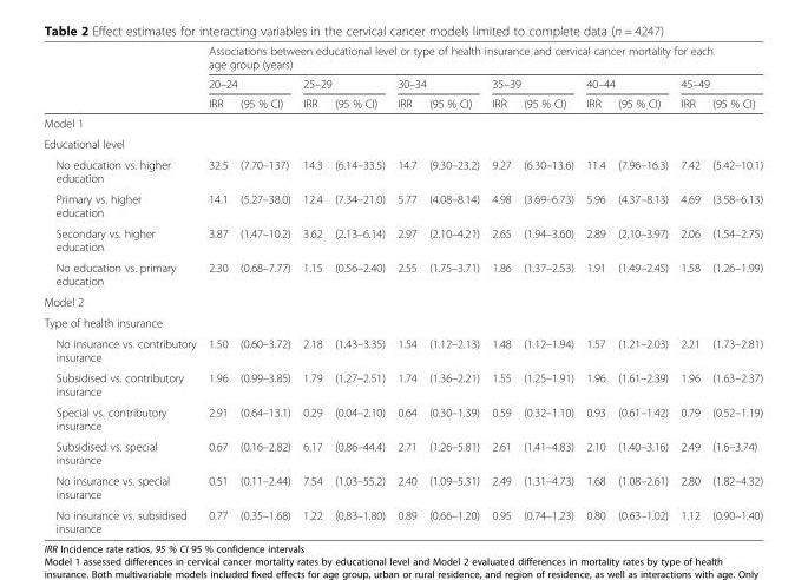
<table><thead><tr><td rowspan="3"></td><td colspan="12">Associations between educational level or type of health insurance and cervical cancer mortality for each age group (years)</td></tr><tr><td colspan="2">20–24</td><td colspan="2">25–29</td><td colspan="2">30–34</td><td colspan="2">35–39</td><td colspan="2">40–44</td><td colspan="2">45–49</td></tr><tr><td>IRR</td><td>(95 % CI)</td><td>IRR</td><td>(95 % CI)</td><td>IRR</td><td>(95 % CI)</td><td>IRR</td><td>(95 % CI)</td><td>IRR</td><td>(95 % CI)</td><td>IRR</td><td>(95 % CI)</td></tr></thead><tbody><tr><td>Model 1</td><td rowspan="2" colspan="12"></td></tr><tr><td>Educational level</td></tr><tr><td>No education vs. higher education</td><td>32.5</td><td>(7.70–137)</td><td>14.3</td><td>(6.14–33.5)</td><td>14.7</td><td>(9.30–23.2)</td><td>9.27</td><td>(6.30–13.6)</td><td>11.4</td><td>(7.96–16.3)</td><td>7.42</td><td>(5.42–10.1)</td></tr><tr><td>Primary vs. higher education</td><td>14.1</td><td>(5.27–38.0)</td><td>12.4</td><td>(7.34–21.0)</td><td>5.77</td><td>(4.08–8.14)</td><td>4.98</td><td>(3.69–6.73)</td><td>5.96</td><td>(4.37–8.13)</td><td>4.69</td><td>(3.58–6.13)</td></tr><tr><td>Secondary vs. higher education</td><td>3.87</td><td>(1.47–10.2)</td><td>3.62</td><td>(2.13–6.14)</td><td>2.97</td><td>(2.10–4.21)</td><td>2.65</td><td>(1.94–3.60)</td><td>2.89</td><td>(2.10–3.97)</td><td>2.06</td><td>(1.54–2.75)</td></tr><tr><td>No education vs. primary education</td><td>2.30</td><td>(0.68–7.77)</td><td>1.15</td><td>(0.56–2.40)</td><td>2.55</td><td>(1.75–3.71)</td><td>1.86</td><td>(1.37–2.53)</td><td>1.91</td><td>(1.49–2.45)</td><td>1.58</td><td>(1.26–1.99)</td></tr><tr><td>Model 2</td><td rowspan="2" colspan="12"></td></tr><tr><td>Type of health insurance</td></tr><tr><td>No insurance vs. contributory insurance</td><td>1.50</td><td>(0.60–3.72)</td><td>2.18</td><td>(1.43–3.35)</td><td>1.54</td><td>(1.12–2.13)</td><td>1.48</td><td>(1.12–1.94)</td><td>1.57</td><td>(1.21–2.03)</td><td>2.21</td><td>(1.73–2.81)</td></tr><tr><td>Subsidised vs. contributory insurance</td><td>1.96</td><td>(0.99–3.85)</td><td>1.79</td><td>(1.27–2.51)</td><td>1.74</td><td>(1.36–2.21)</td><td>1.55</td><td>(1.25–1.91)</td><td>1.96</td><td>(1.61–2.39)</td><td>1.96</td><td>(1.63–2.37)</td></tr><tr><td>Special vs. contributory insurance</td><td>2.91</td><td>(0.64–13.1)</td><td>0.29</td><td>(0.04–2.10)</td><td>0.64</td><td>(0.30–1.39)</td><td>0.59</td><td>(0.32–1.10)</td><td>0.93</td><td>(0.61–1.42)</td><td>0.79</td><td>(0.52–1.19)</td></tr><tr><td>Subsidised vs. special insurance</td><td>0.67</td><td>(0.16–2.82)</td><td>6.17</td><td>(0.86–44.4)</td><td>2.71</td><td>(1.26–5.81)</td><td>2.61</td><td>(1.41–4.83)</td><td>2.10</td><td>(1.40–3.16)</td><td>2.49</td><td>(1.6–3.74)</td></tr><tr><td>No insurance vs. special insurance</td><td>0.51</td><td>(0.11–2.44)</td><td>7.54</td><td>(1.03–55.2)</td><td>2.40</td><td>(1.09–5.31)</td><td>2.49</td><td>(1.31–4.73)</td><td>1.68</td><td>(1.08–2.61)</td><td>2.80</td><td>(1.82–4.32)</td></tr><tr><td>No insurance vs. subsidised insurance</td><td>0.77</td><td>(0.35–1.68)</td><td>1.22</td><td>(0.83–1.80)</td><td>0.89</td><td>(0.66–1.20)</td><td>0.95</td><td>(0.74–1.23)</td><td>0.80</td><td>(0.63–1.02)</td><td>1.12</td><td>(0.90–1.40)</td></tr></tbody></table>